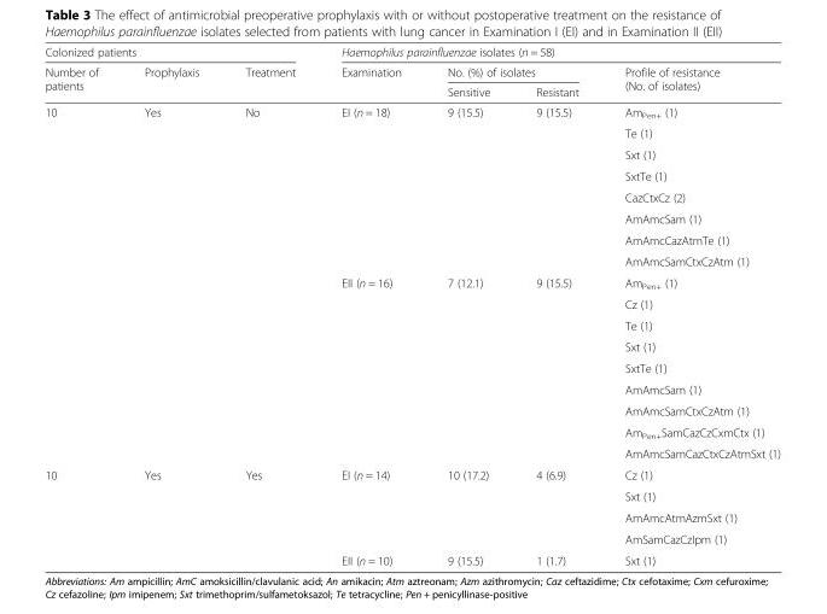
<table><thead><tr><td colspan="3">Colonized patients</td><td colspan="4">Haemophilus parainfluenzae isolates (n = 58)</td></tr><tr><td rowspan="2">Number of patients</td><td rowspan="2">Prophylaxis</td><td rowspan="2">Treatment</td><td rowspan="2">Examination</td><td colspan="2">No. (%) of isolates</td><td rowspan="2">Profile of resistance (No. of isolates)</td></tr><tr><td>Sensitive</td><td>Resistant</td></tr></thead><tbody><tr><td rowspan="17">10</td><td rowspan="17">Yes</td><td rowspan="17">No</td><td rowspan="8">EI (n = 18)</td><td rowspan="8">9 (15.5)</td><td rowspan="8">9 (15.5)</td><td>Am<sub>Pen+</sub> (1)</td></tr><tr><td>Te (1)</td></tr><tr><td>Sxt (1)</td></tr><tr><td>SxtTe (1)</td></tr><tr><td>CazCtxCz (2)</td></tr><tr><td>AmAmcSam (1)</td></tr><tr><td>AmAmcCazAtmTe (1)</td></tr><tr><td>AmAmcSamCtxCzAtm (1)</td></tr><tr><td rowspan="9">EII (n = 16)</td><td rowspan="9">7 (12.1)</td><td rowspan="9">9 (15.5)</td><td>Am<sub>Pen+</sub> (1)</td></tr><tr><td>Cz (1)</td></tr><tr><td>Te (1)</td></tr><tr><td>Sxt (1)</td></tr><tr><td>SxtTe (1)</td></tr><tr><td>AmAmcSam (1)</td></tr><tr><td>AmAmcSamCtxCzAtm (1)</td></tr><tr><td>Am<sub>Pen+</sub>SamCazCzCxmCtx (1)</td></tr><tr><td>AmAmcSamCazCtxCzAtmSxt (1)</td></tr><tr><td rowspan="5">10</td><td rowspan="5">Yes</td><td rowspan="5">Yes</td><td rowspan="4">EI (n = 14)</td><td rowspan="4">10 (17.2)</td><td rowspan="4">4 (6.9)</td><td>Cz (1)</td></tr><tr><td>Sxt (1)</td></tr><tr><td>AmAmcAtmAzmSxt (1)</td></tr><tr><td>AmSamCazCzIpm (1)</td></tr><tr><td>EII (n = 10)</td><td>9 (15.5)</td><td>1 (1.7)</td><td>Sxt (1)</td></tr></tbody></table>